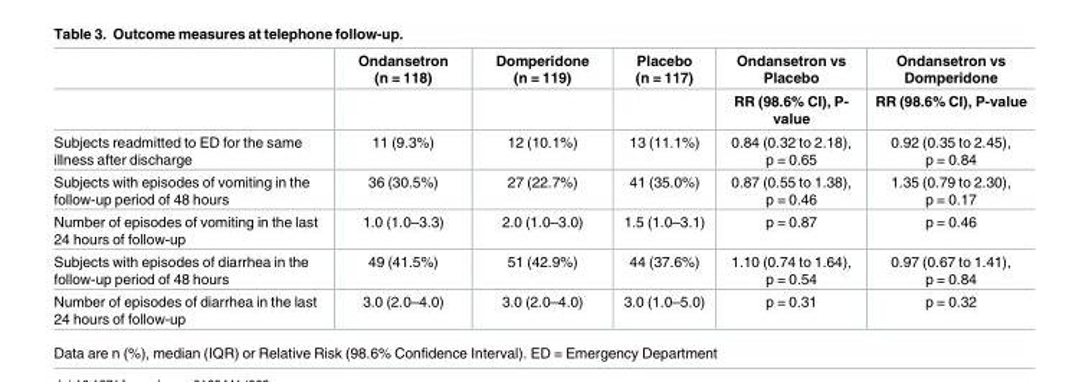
<table><thead><tr><td rowspan="2"></td><td rowspan="2">Ondansetron (n = 118)</td><td rowspan="2">Domperidone (n = 119)</td><td rowspan="2">Placebo (n = 117)</td><td rowspan="2">Ondansetron vs Placebo RR (98.6% CI), P- value</td><td rowspan="2">Ondansetron vs Domperidone RR (98.6% CI), P-value</td></tr><tr></tr></thead><tbody><tr><td>Subjects readmitted to ED for the same illness after discharge</td><td>11 (9.3%)</td><td>12 (10.1%)</td><td>13 (11.1%)</td><td>0.84 (0.32 to 2.18), p = 0.65</td><td>0.92 (0.35 to 2.45), p = 0.84</td></tr><tr><td>Subjects with episodes of vomiting in the follow-up period of 48 hours</td><td>36 (30.5%)</td><td>27 (22.7%)</td><td>41 (35.0%)</td><td>0.87 (0.55 to 1.38), p = 0.46</td><td>1.35 (0.79 to 2.30), p = 0.17</td></tr><tr><td>Number of episodes of vomiting in the last 24 hours of follow-up</td><td>1.0 (1.0–3.3)</td><td>2.0 (1.0–3.0)</td><td>1.5 (1.0–3.1)</td><td>p = 0.87</td><td>p = 0.46</td></tr><tr><td>Subjects with episodes of diarrhea in the follow-up period of 48 hours</td><td>49 (41.5%)</td><td>51 (42.9%)</td><td>44 (37.6%)</td><td>1.10 (0.74 to 1.64), p = 0.54</td><td>0.97 (0.67 to 1.41), p = 0.84</td></tr><tr><td>Number of episodes of diarrhea in the last 24 hours of follow-up</td><td>3.0 (2.0–4.0)</td><td>3.0 (2.0–4.0)</td><td>3.0 (1.0–5.0)</td><td>p = 0.31</td><td>p = 0.32</td></tr></tbody></table>